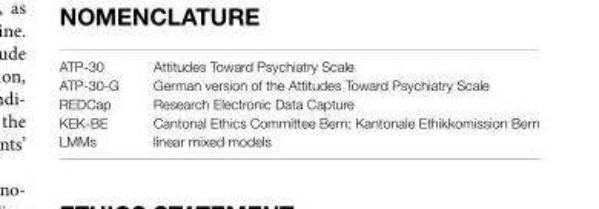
<table><tbody><tr><td>ATP-30</td><td>Attitudes Toward Psychiatry Scale</td></tr><tr><td>ATP-30-G</td><td>German version of the Attitudes Toward Psychiatry Scale</td></tr><tr><td>REDCap</td><td>Research Electronic Data Capture</td></tr><tr><td>KEK-BE</td><td>Cantonal Ethics Committee Bern; Kantonale Ethikkomission Bern</td></tr><tr><td>LMMs</td><td>linear mixed models</td></tr></tbody></table>